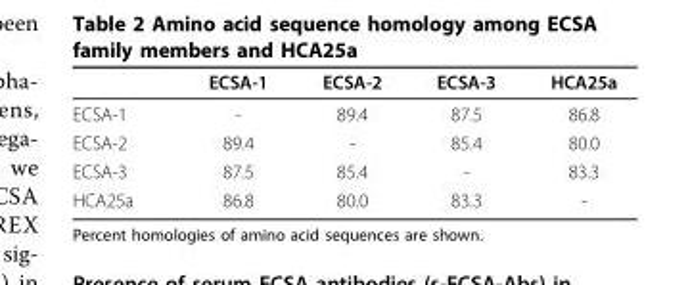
<table><thead><tr><td></td><td>ECSA-1</td><td>ECSA-2</td><td>ECSA-3</td><td>HCA25a</td></tr></thead><tbody><tr><td>ECSA-1</td><td>-</td><td>89.4</td><td>87.5</td><td>86.8</td></tr><tr><td>ECSA-2</td><td>89.4</td><td>-</td><td>85.4</td><td>80.0</td></tr><tr><td>ECSA-3</td><td>87.5</td><td>85.4</td><td>-</td><td>83.3</td></tr><tr><td>HCA25a</td><td>86.8</td><td>80.0</td><td>83.3</td><td>-</td></tr></tbody></table>